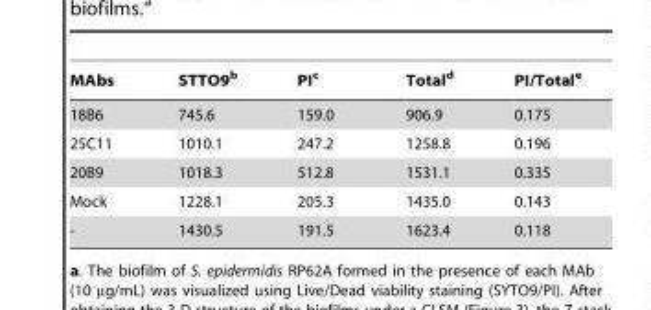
<table><thead><tr><td>MAbs</td><td>STTO9<sup>b</sup></td><td>PI<sup>c</sup></td><td>Total<sup>d</sup></td><td>PI/Total<sup>e</sup></td></tr></thead><tbody><tr><td>18B6</td><td>745.6</td><td>159.0</td><td>906.9</td><td>0.175</td></tr><tr><td>25C11</td><td>1010.1</td><td>247.2</td><td>1258.8</td><td>0.196</td></tr><tr><td>20B9</td><td>1018.3</td><td>512.8</td><td>1531.1</td><td>0.335</td></tr><tr><td>Mock</td><td>1228.1</td><td>205.3</td><td>1435.0</td><td>0.143</td></tr><tr><td>-</td><td>1430.5</td><td>191.5</td><td>1623.4</td><td>0.118</td></tr></tbody></table>